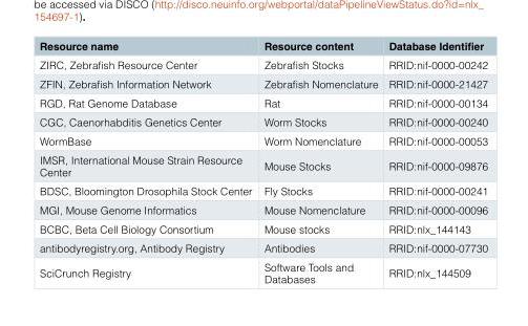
<table><thead><tr><td>Resource name</td><td>Resource content</td><td>Database Identifier</td></tr></thead><tbody><tr><td>ZIRC, Zebrafish Resource Center</td><td>Zebrafish Stocks</td><td>RRID:nif-0000-00242</td></tr><tr><td>ZFIN, Zebrafish Information Network</td><td>Zebrafish Nomenclature</td><td>RRID:nif-0000-21427</td></tr><tr><td>RGD, Rat Genome Database</td><td>Rat</td><td>RRID:nif-0000-00134</td></tr><tr><td>CGC, Caenorhabditis Genetics Center</td><td>Worm Stocks</td><td>RRID:nif-0000-00240</td></tr><tr><td>WormBase</td><td>Worm Nomenclature</td><td>RRID:nif-0000-00053</td></tr><tr><td>IMSR, International Mouse Strain Resource Center</td><td>Mouse Stocks</td><td>RRID:nif-0000-09876</td></tr><tr><td>BDSC, Bloomington Drosophila Stock Center</td><td>Fly Stocks</td><td>RRID:nif-0000-00241</td></tr><tr><td>MGI, Mouse Genome Informatics</td><td>Mouse Nomenclature</td><td>RRID:nif-0000-00096</td></tr><tr><td>BCBC, Beta Cell Biology Consortium</td><td>Mouse stocks</td><td>RRID:nlx_144143</td></tr><tr><td>antibodyregistry.org, Antibody Registry</td><td>Antibodies</td><td>RRID:nif-0000-07730</td></tr><tr><td>SciCrunch Registry</td><td>Software Tools and Databases</td><td>RRID:nlx_144509</td></tr></tbody></table>